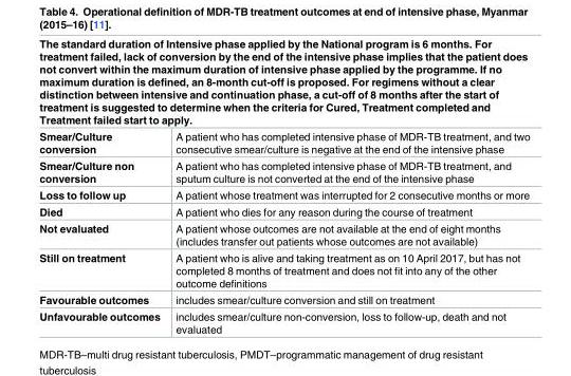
<table><thead><tr><td colspan="2">The standard duration of Intensive phase applied by the National program is 6 months. For treatment failed, lack of conversion by the end of the intensive phase implies that the patient does not convert within the maximum duration of intensive phase applied by the programme. If no maximum duration is defined, an 8-month cut-off is proposed. For regimens without a clear distinction between intensive and continuation phase, a cut-off of 8 months after the start of treatment is suggested to determine when the criteria for Cured, Treatment completed and Treatment failed start to apply.</td></tr><tr><td>Smear/Culture conversion</td><td>A patient who has completed intensive phase of MDR-TB treatment, and two consecutive smear/culture is negative at the end of the intensive phase</td></tr></thead><tbody><tr><td>Smear/Culture non conversion</td><td>A patient who has completed intensive phase of MDR-TB treatment, and sputum culture is not converted at the end of the intensive phase</td></tr><tr><td>Loss to follow up</td><td>A patient whose treatment was interrupted for 2 consecutive months or more</td></tr><tr><td>Died</td><td>A patient who dies for any reason during the course of treatment</td></tr><tr><td>Not evaluated</td><td>A patient whose outcomes are not available at the end of eight months (includes transfer out patients whose outcomes are not available)</td></tr><tr><td>Still on treatment</td><td>A patient who is alive and taking treatment as on 10 April 2017, but has not completed 8 months of treatment and does not fit into any of the other outcome definitions</td></tr><tr><td>Favourable outcomes</td><td>includes smear/culture conversion and still on treatment</td></tr><tr><td>Unfavourable outcomes</td><td>includes smear/culture non-conversion, loss to follow-up, death and not evaluated</td></tr></tbody></table>